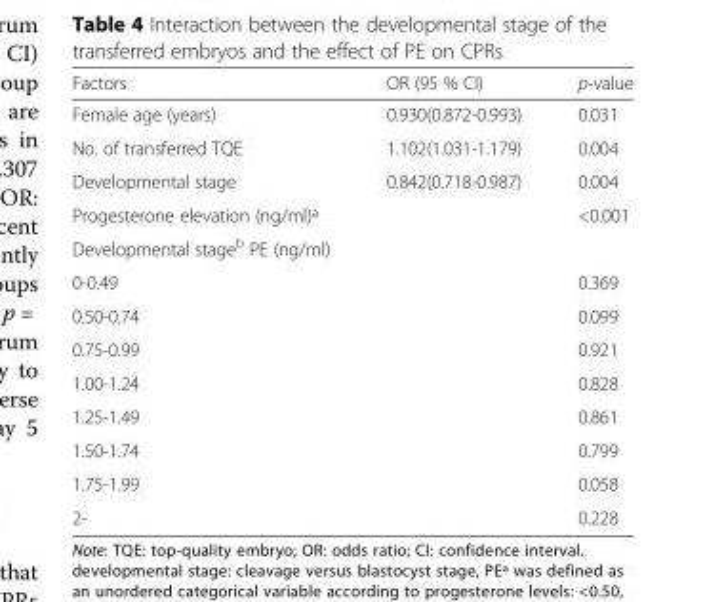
<table><thead><tr><td>Factors</td><td>OR (95 % CI)</td><td>p-value</td></tr></thead><tbody><tr><td>Female age (years)</td><td>0.930(0.872-0.993)</td><td>0.031</td></tr><tr><td>No. of transferred TQE</td><td>1.102(1.031-1.179)</td><td>0.004</td></tr><tr><td>Developmental stage</td><td>0.842(0.718-0.987)</td><td>0.004</td></tr><tr><td>Progesterone elevation (ng/ml)ª</td><td></td><td>&lt;0.001</td></tr><tr><td colspan="3">Developmental stage<sup>b</sup> PE (ng/ml)</td></tr><tr><td>0-0.49</td><td></td><td>0.369</td></tr><tr><td>0.50-0.74</td><td></td><td>0.099</td></tr><tr><td>0.75-0.99</td><td></td><td>0.921</td></tr><tr><td>1.00-1.24</td><td></td><td>0.828</td></tr><tr><td>1.25-1.49</td><td></td><td>0.861</td></tr><tr><td>1.50-1.74</td><td></td><td>0.799</td></tr><tr><td>1.75-1.99</td><td></td><td>0.058</td></tr><tr><td>2-</td><td></td><td>0.228</td></tr></tbody></table>